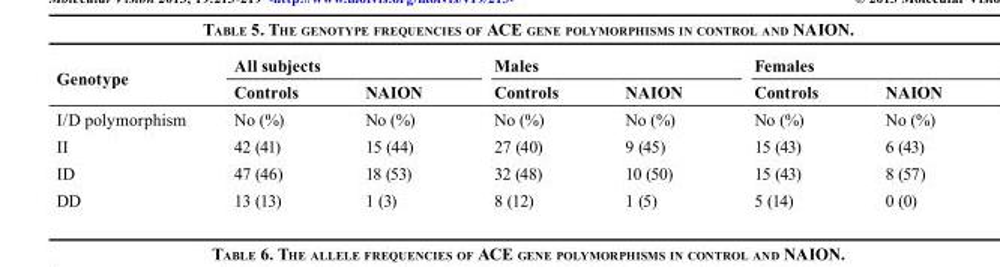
<table><thead><tr><td rowspan="2">Genotype</td><td colspan="2">All subjects</td><td colspan="2">Males</td><td colspan="2">Females</td></tr><tr><td>Controls</td><td>NAION</td><td>Controls</td><td>NAION</td><td>Controls</td><td>NAION</td></tr></thead><tbody><tr><td>I/D polymorphism</td><td>No (%)</td><td>No (%)</td><td>No (%)</td><td>No (%)</td><td>No (%)</td><td>No (%)</td></tr><tr><td>II</td><td>42 (41)</td><td>15 (44)</td><td>27 (40)</td><td>9 (45)</td><td>15 (43)</td><td>6 (43)</td></tr><tr><td>ID</td><td>47 (46)</td><td>18 (53)</td><td>32 (48)</td><td>10 (50)</td><td>15 (43)</td><td>8 (57)</td></tr><tr><td>DD</td><td>13 (13)</td><td>1 (3)</td><td>8 (12)</td><td>1 (5)</td><td>5 (14)</td><td>0 (0)</td></tr></tbody></table>